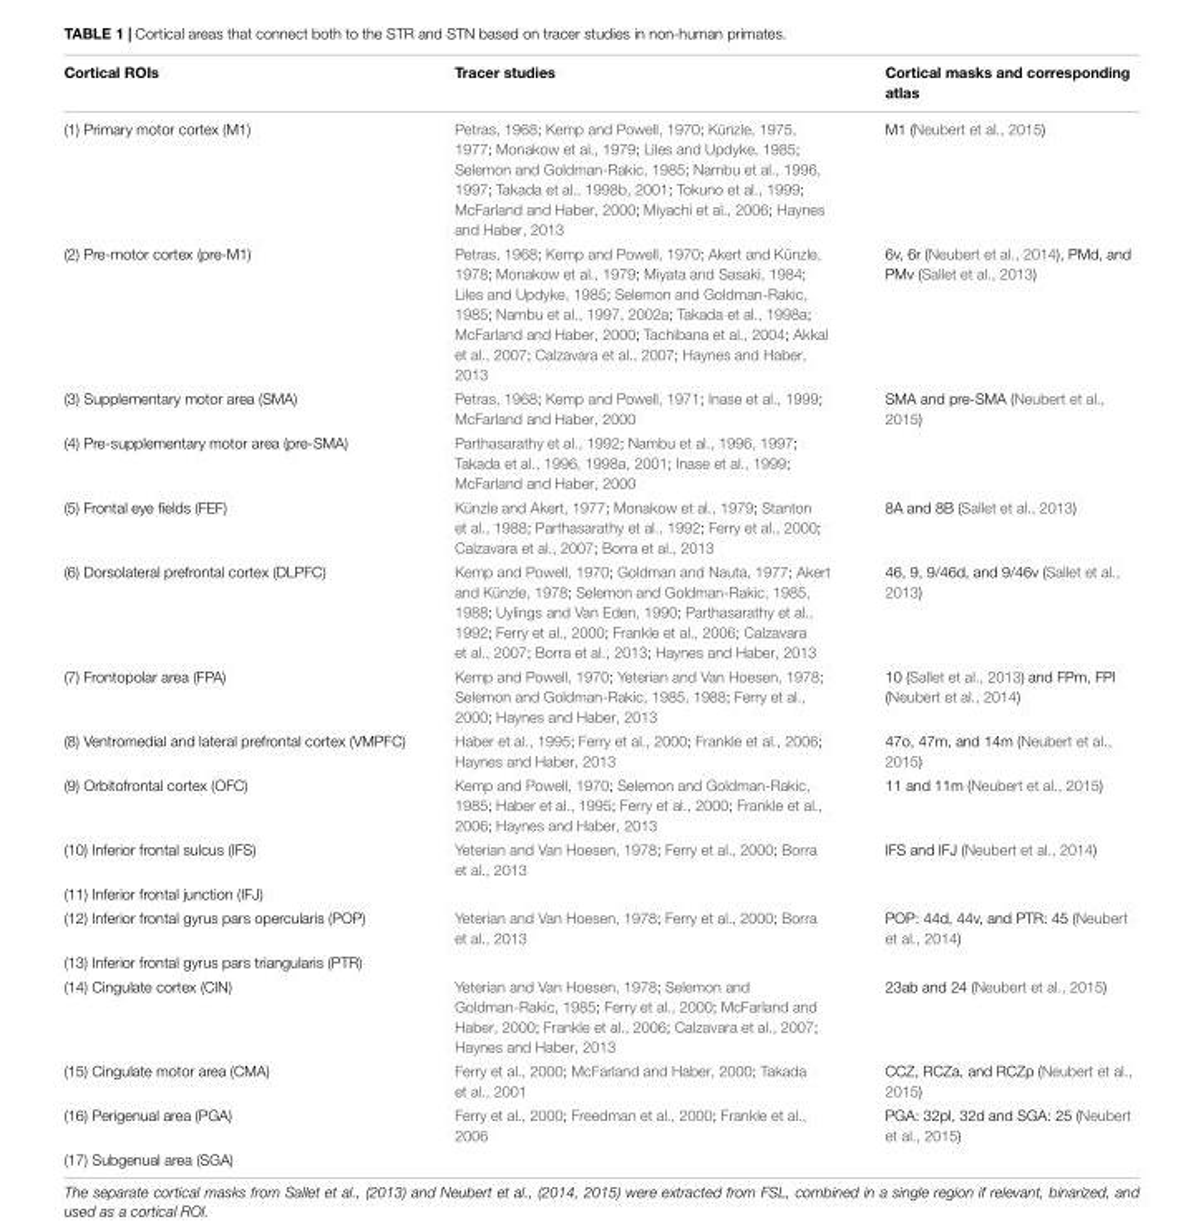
<table><thead><tr><td>Cortical ROIs</td><td>Tracer studies</td><td>Cortical masks and corresponding atlas</td></tr></thead><tbody><tr><td>(1) Primary motor cortex (M1)</td><td>Petras, 1968; Kemp and Powell, 1970; Künzle, 1975, 1977; Monakow et al., 1979; Liles and Updyke, 1985; Selemon and Goldman-Rakic, 1985; Nambu et al., 1996, 1997; Takada et al., 1998b, 2001; Tokuno et al., 1999; McFarland and Haber, 2000; Miyachi et al., 2006; Haynes and Haber, 2013</td><td>M1 (Neubert et al., 2015)</td></tr><tr><td>(2) Pre-motor cortex (pre-M1)</td><td>Petras, 1968; Kemp and Powell, 1970; Akert and Künzle, 1978; Monakow et al., 1979; Miyata and Sasaki, 1984; Liles and Updyke, 1985; Selemon and Goldman-Rakic, 1985; Nambu et al., 1997, 2002a; Takada et al., 1998a; McFarland and Haber, 2000; Tachibana et al., 2004; Akkal et al., 2007; Calzavara et al., 2007; Haynes and Haber, 2013</td><td>6v, 6r (Neubert et al., 2014), PMd, and PMv (Sallet et al., 2013)</td></tr><tr><td>(3) Supplementary motor area (SMA)</td><td>Petras, 1968; Kemp and Powell, 1971; Inase et al., 1999; McFarland and Haber, 2000</td><td>SMA and pre-SMA (Neubert et al., 2015)</td></tr><tr><td>(4) Pre-supplementary motor area (pre-SMA)</td><td>Parthasarathy et al., 1992; Nambu et al., 1996, 1997; Takada et al., 1996, 1998a, 2001; Inase et al., 1999; McFarland and Haber, 2000</td><td></td></tr><tr><td>(5) Frontal eye fields (FEF)</td><td>Künzle and Akert, 1977; Monakow et al., 1979; Stanton et al., 1988; Parthasarathy et al., 1992; Ferry et al., 2000; Calzavara et al., 2007; Borra et al., 2013</td><td>8A and 8B (Sallet et al., 2013)</td></tr><tr><td>(6) Dorsolateral prefrontal cortex (DLPFC)</td><td>Kemp and Powell, 1970; Goldman and Nauta, 1977; Akert and Künzle, 1978; Selemon and Goldman-Rakic, 1985, 1988; Uylings and Van Eden, 1990; Parthasarathy et al., 1992; Ferry et al., 2000; Frankle et al., 2006; Calzavara et al., 2007; Borra et al., 2013; Haynes and Haber, 2013</td><td>46, 9, 9/46d, and 9/46v (Sallet et al., 2013)</td></tr><tr><td>(7) Frontopolar area (FPA)</td><td>Kemp and Powell, 1970; Yeterian and Van Hoesen, 1978; Selemon and Goldman-Rakic, 1985, 1988; Ferry et al., 2000; Haynes and Haber, 2013</td><td>10 (Sallet et al., 2013) and FPm, FPl (Neubert et al., 2014)</td></tr><tr><td>(8) Ventromedial and lateral prefrontal cortex (VMPFC)</td><td>Haber et al., 1995; Ferry et al., 2000; Frankle et al., 2006; Haynes and Haber, 2013</td><td>47o, 47m, and 14m (Neubert et al., 2015)</td></tr><tr><td>(9) Orbitofrontal cortex (OFC)</td><td>Kemp and Powell, 1970; Selemon and Goldman-Rakic, 1985; Haber et al., 1995; Ferry et al., 2000; Frankle et al., 2006; Haynes and Haber, 2013</td><td>11 and 11m (Neubert et al., 2015)</td></tr><tr><td>(10) Inferior frontal sulcus (IFS)</td><td>Yeterian and Van Hoesen, 1978; Ferry et al., 2000; Borra et al., 2013</td><td>IFS and IFJ (Neubert et al., 2014)</td></tr><tr><td colspan="3">(11) Inferior frontal junction (IFJ)</td></tr><tr><td>(12) Inferior frontal gyrus pars opercularis (POP)</td><td>Yeterian and Van Hoesen, 1978; Ferry et al., 2000; Borra et al., 2013</td><td>POP: 44d, 44v, and PTR: 45 (Neubert et al., 2014)</td></tr><tr><td colspan="3">(13) Inferior frontal gyrus pars triangularis (PTR)</td></tr><tr><td>(14) Cingulate cortex (CIN)</td><td>Yeterian and Van Hoesen, 1978; Selemon and Goldman-Rakic, 1985; Ferry et al., 2000; McFarland and Haber, 2000; Frankle et al., 2006; Calzavara et al., 2007; Haynes and Haber, 2013</td><td>23ab and 24 (Neubert et al., 2015)</td></tr><tr><td>(15) Cingulate motor area (CMA)</td><td>Ferry et al., 2000; McFarland and Haber, 2000; Takada et al., 2001</td><td>CCZ, RCZa, and RCZp (Neubert et al., 2015)</td></tr><tr><td>(16) Perigenual area (PGA)</td><td>Ferry et al., 2000; Freedman et al., 2000; Frankle et al., 2006</td><td>PGA: 32pl, 32d and SGA: 25 (Neubert et al., 2015)</td></tr><tr><td>(17) Subgenual area (SGA)</td><td></td><td></td></tr></tbody></table>